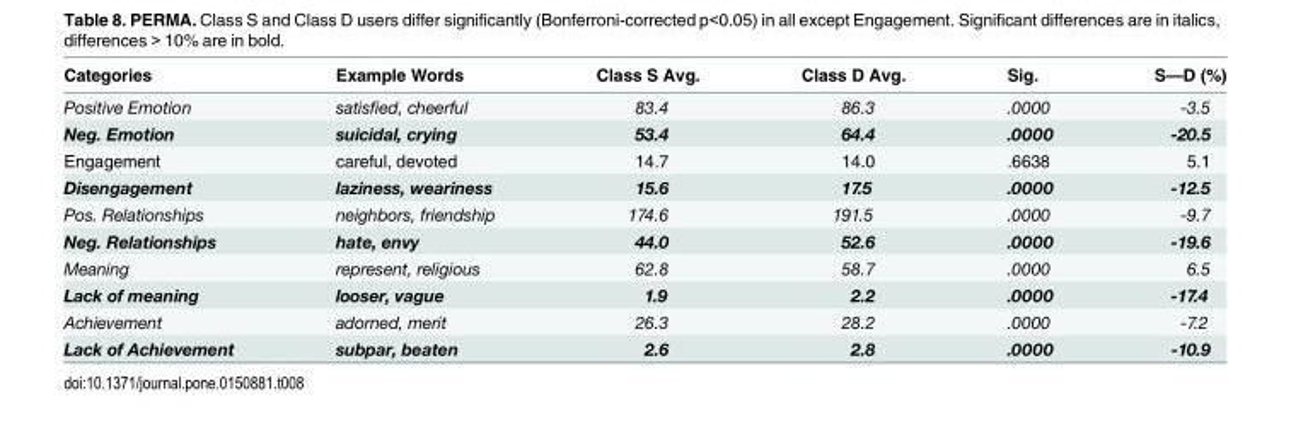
<table><thead><tr><td>Categories</td><td>Example Words</td><td>Class S Avg.</td><td>Class D Avg.</td><td>Sig.</td><td>S—D (%)</td></tr></thead><tbody><tr><td>Positive Emotion</td><td>satisfied, cheerful</td><td>83.4</td><td>86.3</td><td>.0000</td><td>-3.5</td></tr><tr><td>Neg. Emotion</td><td>suicidal, crying</td><td>53.4</td><td>64.4</td><td>.0000</td><td>-20.5</td></tr><tr><td>Engagement</td><td>careful, devoted</td><td>14.7</td><td>14.0</td><td>.6638</td><td>5.1</td></tr><tr><td>Disengagement</td><td>laziness, weariness</td><td>15.6</td><td>17.5</td><td>.0000</td><td>-12.5</td></tr><tr><td>Pos. Relationships</td><td>neighbors, friendship</td><td>174.6</td><td>191.5</td><td>.0000</td><td>-9.7</td></tr><tr><td>Neg. Relationships</td><td>hate, envy</td><td>44.0</td><td>52.6</td><td>.0000</td><td>-19.6</td></tr><tr><td>Meaning</td><td>represent, religious</td><td>62.8</td><td>58.7</td><td>.0000</td><td>6.5</td></tr><tr><td>Lack of meaning</td><td>looser, vague</td><td>1.9</td><td>2.2</td><td>.0000</td><td>-17.4</td></tr><tr><td>Achievement</td><td>adorned, merit</td><td>26.3</td><td>28.2</td><td>.0000</td><td>-7.2</td></tr><tr><td>Lack of Achievement</td><td>subpar, beaten</td><td>2.6</td><td>2.8</td><td>.0000</td><td>-10.9</td></tr></tbody></table>